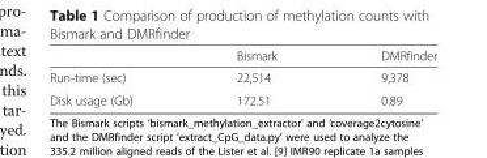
<table><thead><tr><td></td><td>Bismark</td><td>DMRfinder</td></tr></thead><tbody><tr><td>Run-time (sec)</td><td>22,514</td><td>9,378</td></tr><tr><td>Disk usage (Gb)</td><td>172.51</td><td>0.89</td></tr></tbody></table>